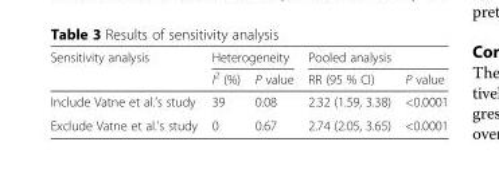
<table><thead><tr><td rowspan="2">Sensitivity analysis</td><td colspan="2">Heterogeneity</td><td colspan="2">Pooled analysis</td></tr><tr><td>I<sup>2</sup> (%)</td><td>P value</td><td>RR (95 % CI)</td><td>P value</td></tr></thead><tbody><tr><td>Include Vatne et al.’s study</td><td>39</td><td>0.08</td><td>2.32 (1.59, 3.38)</td><td>&lt;0.0001</td></tr><tr><td>Exclude Vatne et al.’s study</td><td>0</td><td>0.67</td><td>2.74 (2.05, 3.65)</td><td>&lt;0.0001</td></tr></tbody></table>